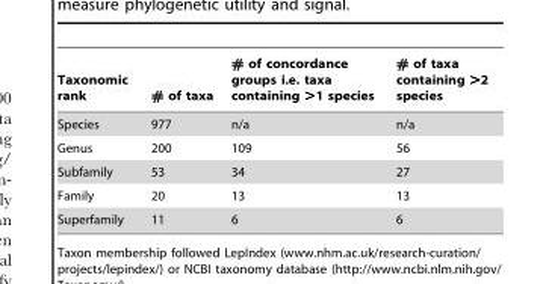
<table><thead><tr><td>Taxonomic rank</td><td># of taxa</td><td># of concordance groups i.e. taxa containing &gt;1 species</td><td># of taxa containing &gt;2 species</td></tr></thead><tbody><tr><td>Species</td><td>977</td><td>n/a</td><td>n/a</td></tr><tr><td>Genus</td><td>200</td><td>109</td><td>56</td></tr><tr><td>Subfamily</td><td>53</td><td>34</td><td>27</td></tr><tr><td>Family</td><td>20</td><td>13</td><td>13</td></tr><tr><td>Superfamily</td><td>11</td><td>6</td><td>6</td></tr></tbody></table>